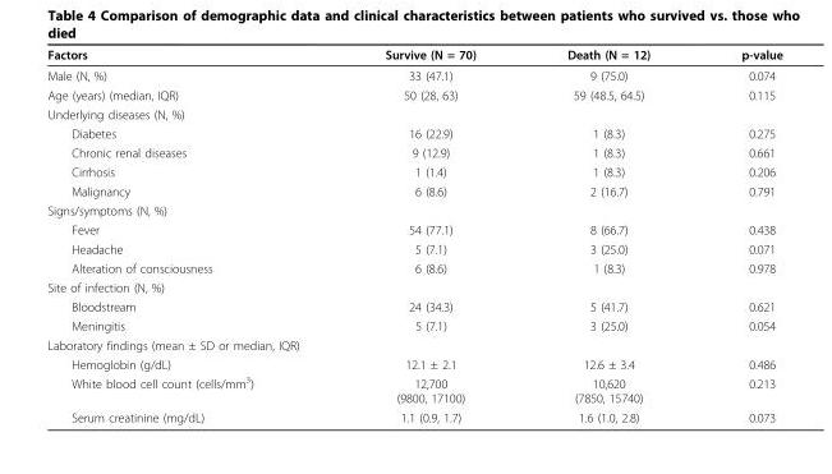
<table><thead><tr><td>Factors</td><td>Survive (N = 70)</td><td>Death (N = 12)</td><td>p-value</td></tr></thead><tbody><tr><td>Male (N, %)</td><td>33 (47.1)</td><td>9 (75.0)</td><td>0.074</td></tr><tr><td>Age (years) (median, IQR)</td><td>50 (28, 63)</td><td>59 (48.5, 64.5)</td><td>0.115</td></tr><tr><td colspan="4">Underlying diseases (N, %)</td></tr><tr><td>Diabetes</td><td>16 (22.9)</td><td>1 (8.3)</td><td>0.275</td></tr><tr><td>Chronic renal diseases</td><td>9 (12.9)</td><td>1 (8.3)</td><td>0.661</td></tr><tr><td>Cirrhosis</td><td>1 (1.4)</td><td>1 (8.3)</td><td>0.206</td></tr><tr><td>Malignancy</td><td>6 (8.6)</td><td>2 (16.7)</td><td>0.791</td></tr><tr><td colspan="4">Signs/symptoms (N, %)</td></tr><tr><td>Fever</td><td>54 (77.1)</td><td>8 (66.7)</td><td>0.438</td></tr><tr><td>Headache</td><td>5 (7.1)</td><td>3 (25.0)</td><td>0.071</td></tr><tr><td>Alteration of consciousness</td><td>6 (8.6)</td><td>1 (8.3)</td><td>0.978</td></tr><tr><td colspan="4">Site of infection (N, %)</td></tr><tr><td>Bloodstream</td><td>24 (34.3)</td><td>5 (41.7)</td><td>0.621</td></tr><tr><td>Meningitis</td><td>5 (7.1)</td><td>3 (25.0)</td><td>0.054</td></tr><tr><td colspan="4">Laboratory findings (mean ± SD or median, IQR)</td></tr><tr><td>Hemoglobin (g/dL)</td><td>12.1 ± 2.1</td><td>12.6 ± 3.4</td><td>0.486</td></tr><tr><td>White blood cell count (cells/mm<sup>3</sup>)</td><td>12,700 (9800, 17100)</td><td>10,620 (7850, 15740)</td><td>0.213</td></tr><tr><td>Serum creatinine (mg/dL)</td><td>1.1 (0.9, 1.7)</td><td>1.6 (1.0, 2.8)</td><td>0.073</td></tr></tbody></table>